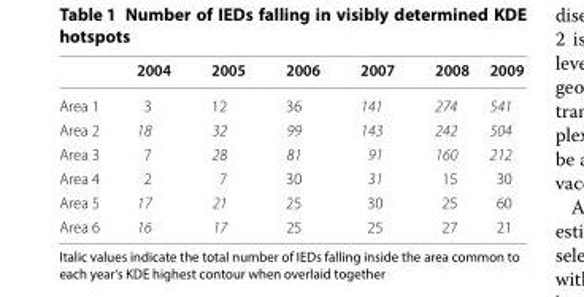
<table><thead><tr><td></td><td>2004</td><td>2005</td><td>2006</td><td>2007</td><td>2008</td><td>2009</td></tr></thead><tbody><tr><td>Area 1</td><td>3</td><td>12</td><td>36</td><td>141</td><td>274</td><td>541</td></tr><tr><td>Area 2</td><td>18</td><td>32</td><td>99</td><td>143</td><td>242</td><td>504</td></tr><tr><td>Area 3</td><td>7</td><td>28</td><td>81</td><td>91</td><td>160</td><td>212</td></tr><tr><td>Area 4</td><td>2</td><td>7</td><td>30</td><td>31</td><td>15</td><td>30</td></tr><tr><td>Area 5</td><td>17</td><td>21</td><td>25</td><td>30</td><td>25</td><td>60</td></tr><tr><td>Area 6</td><td>16</td><td>17</td><td>25</td><td>25</td><td>27</td><td>21</td></tr></tbody></table>